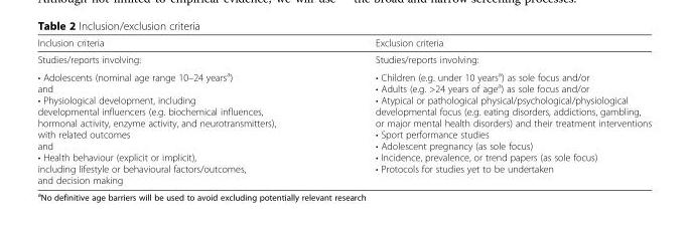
<table><thead><tr><td>Inclusion criteria</td><td>Exclusion criteria</td></tr></thead><tbody><tr><td>Studies/reports involving:</td><td>Studies/reports involving:</td></tr><tr><td>• Adolescents (nominal age range 10–24 years<sup>a</sup>) and • Physiological development, including developmental influencers (e.g. biochemical influences, hormonal activity, enzyme activity, and neurotransmitters), with related outcomes and • Health behaviour (explicit or implicit), including lifestyle or behavioural factors/outcomes, and decision making</td><td>• Children (e.g. under 10 years<sup>a</sup>) as sole focus and/or • Adults (e.g. &gt;24 years of age<sup>a</sup>) as sole focus and/or • Atypical or pathological physical/psychological/physiological developmental focus (e.g. eating disorders, addictions, gambling, or major mental health disorders) and their treatment interventions • Sport performance studies • Adolescent pregnancy (as sole focus) • Incidence, prevalence, or trend papers (as sole focus) • Protocols for studies yet to be undertaken</td></tr></tbody></table>